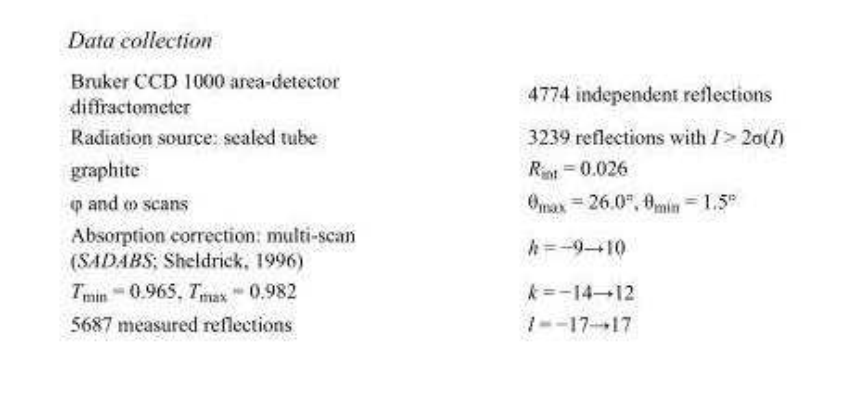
<table><tbody><tr><td>Bruker CCD 1000 area-detector diffractometer</td><td>4774 independent reflections</td></tr><tr><td>Radiation source: sealed tube</td><td>3239 reflections with I &gt; 2σ(I)</td></tr><tr><td>graphite</td><td>R<sub>int</sub> = 0.026</td></tr><tr><td>φ and ω scans</td><td>θ<sub>max</sub> = 26.0°, θ<sub>min</sub> = 1.5°</td></tr><tr><td>Absorption correction: multi-scan (SADABS; Sheldrick, 1996)</td><td>h = −9→10</td></tr><tr><td>T<sub>min</sub> = 0.965, T<sub>max</sub> = 0.982</td><td>k = −14→12</td></tr><tr><td>5687 measured reflections</td><td>l = −17→17</td></tr></tbody></table>